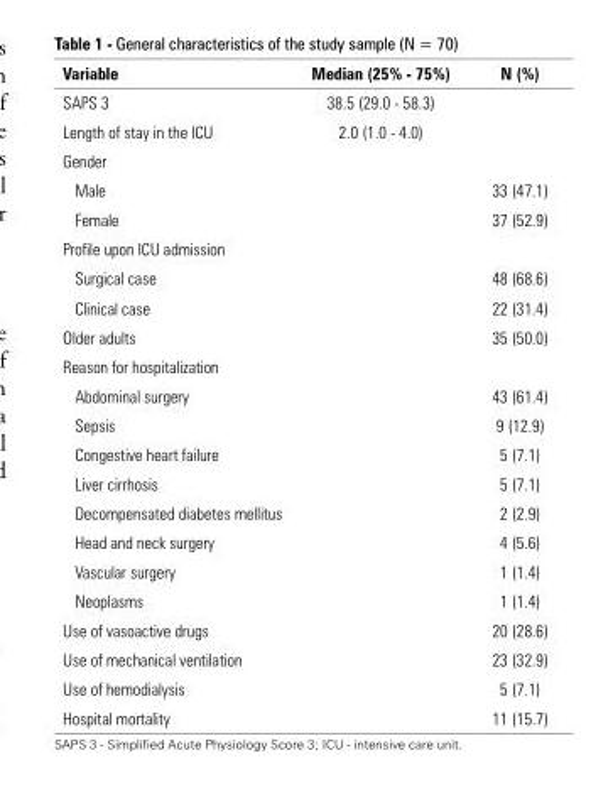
<table><thead><tr><td>Variable</td><td>Median (25% - 75%)</td><td>N (%)</td></tr></thead><tbody><tr><td>SAPS 3</td><td>38.5 (29.0 - 58.3)</td><td></td></tr><tr><td>Length of stay in the ICU</td><td>2.0 (1.0 - 4.0)</td><td></td></tr><tr><td colspan="3">Gender</td></tr><tr><td>Male</td><td></td><td>33 (47.1)</td></tr><tr><td>Female</td><td></td><td>37 (52.9)</td></tr><tr><td colspan="3">Profile upon ICU admission</td></tr><tr><td>Surgical case</td><td></td><td>48 (68.6)</td></tr><tr><td>Clinical case</td><td></td><td>22 (31.4)</td></tr><tr><td>Older adults</td><td></td><td>35 (50.0)</td></tr><tr><td colspan="3">Reason for hospitalization</td></tr><tr><td>Abdominal surgery</td><td></td><td>43 (61.4)</td></tr><tr><td>Sepsis</td><td></td><td>9 (12.9)</td></tr><tr><td>Congestive heart failure</td><td></td><td>5 (7.1)</td></tr><tr><td>Liver cirrhosis</td><td></td><td>5 (7.1)</td></tr><tr><td>Decompensated diabetes mellitus</td><td></td><td>2 (2.9)</td></tr><tr><td>Head and neck surgery</td><td></td><td>4 (5.6)</td></tr><tr><td>Vascular surgery</td><td></td><td>1 (1.4)</td></tr><tr><td>Neoplasms</td><td></td><td>1 (1.4)</td></tr><tr><td>Use of vasoactive drugs</td><td></td><td>20 (28.6)</td></tr><tr><td>Use of mechanical ventilation</td><td></td><td>23 (32.9)</td></tr><tr><td>Use of hemodialysis</td><td></td><td>5 (7.1)</td></tr><tr><td>Hospital mortality</td><td></td><td>11 (15.7)</td></tr></tbody></table>